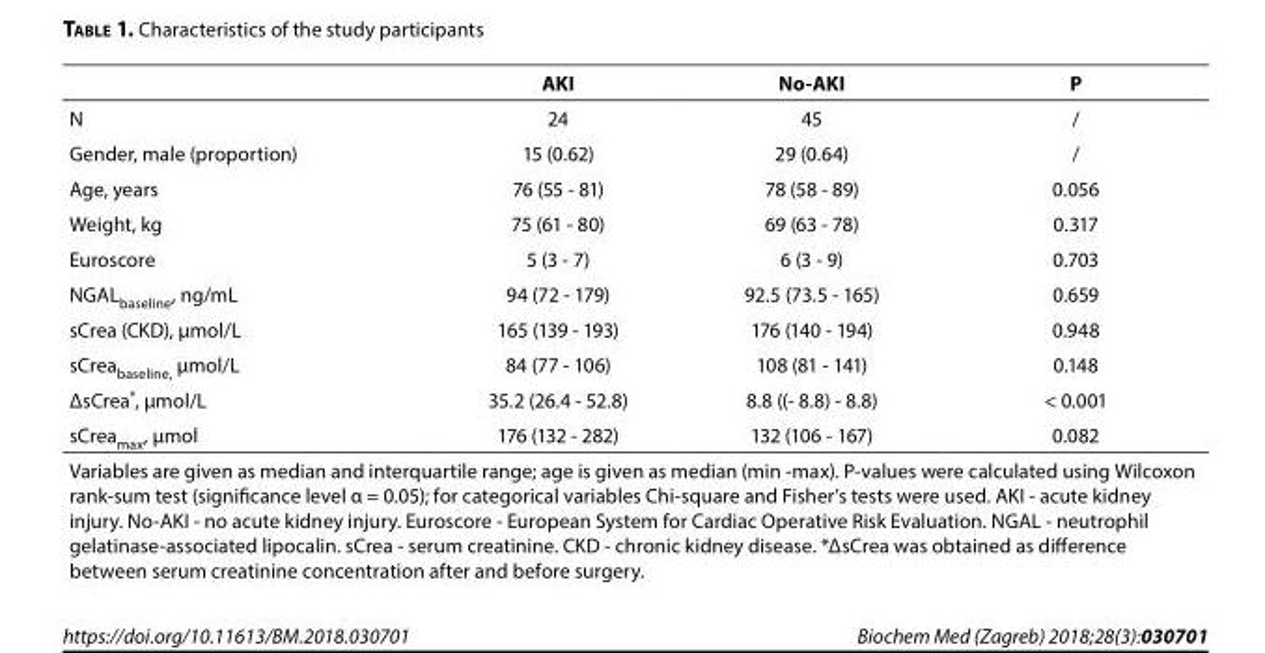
<table><thead><tr><td></td><td>AKI</td><td>No-AKI</td><td>P</td></tr></thead><tbody><tr><td>N</td><td>24</td><td>45</td><td>/</td></tr><tr><td>Gender, male (proportion)</td><td>15 (0.62)</td><td>29 (0.64)</td><td>/</td></tr><tr><td>Age, years</td><td>76 (55 - 81)</td><td>78 (58 - 89)</td><td>0.056</td></tr><tr><td>Weight, kg</td><td>75 (61 - 80)</td><td>69 (63 - 78)</td><td>0.317</td></tr><tr><td>Euroscore</td><td>5 (3 - 7)</td><td>6 (3 - 9)</td><td>0.703</td></tr><tr><td>NGAL<sub>baseline</sub>, ng/mL</td><td>94 (72 - 179)</td><td>92.5 (73.5 - 165)</td><td>0.659</td></tr><tr><td>sCrea (CKD), µmol/L</td><td>165 (139 - 193)</td><td>176 (140 - 194)</td><td>0.948</td></tr><tr><td>sCrea<sub>baseline,</sub> µmol/L</td><td>84 (77 - 106)</td><td>108 (81 - 141)</td><td>0.148</td></tr><tr><td>ΔsCrea*, µmol/L</td><td>35.2 (26.4 - 52.8)</td><td>8.8 ((- 8.8) - 8.8)</td><td>&lt; 0.001</td></tr><tr><td>sCrea<sub>max</sub>, µmol</td><td>176 (132 - 282)</td><td>132 (106 - 167)</td><td>0.082</td></tr><tr><td colspan="4">Variables are given as median and interquartile range; age is given as median (min -max). P-values were calculated using Wilcoxon rank-sum test (significance level α = 0.05); for categorical variables Chi-square and Fisher’s tests were used. AKI - acute kidney injury. No-AKI - no acute kidney injury. Euroscore - European System for Cardiac Operative Risk Evaluation. NGAL - neutrophil gelatinase-associated lipocalin. sCrea - serum creatinine. CKD - chronic kidney disease. *ΔsCrea was obtained as difference between serum creatinine concentration after and before surgery.</td></tr></tbody></table>